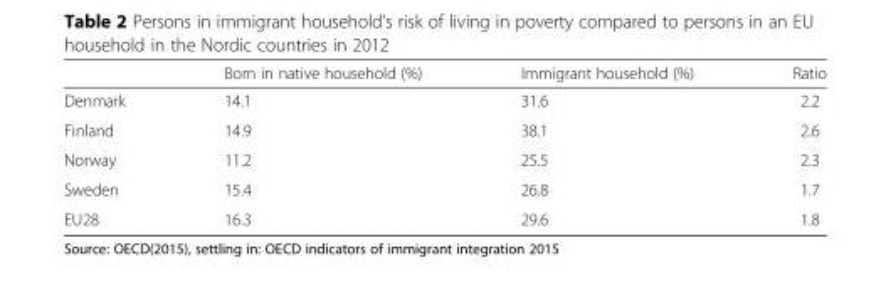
<table><thead><tr><td></td><td>Born in native household (%)</td><td>Immigrant household (%)</td><td>Ratio</td></tr></thead><tbody><tr><td>Denmark</td><td>14.1</td><td>31.6</td><td>2.2</td></tr><tr><td>Finland</td><td>14.9</td><td>38.1</td><td>2.6</td></tr><tr><td>Norway</td><td>11.2</td><td>25.5</td><td>2.3</td></tr><tr><td>Sweden</td><td>15.4</td><td>26.8</td><td>1.7</td></tr><tr><td>EU28</td><td>16.3</td><td>29.6</td><td>1.8</td></tr></tbody></table>